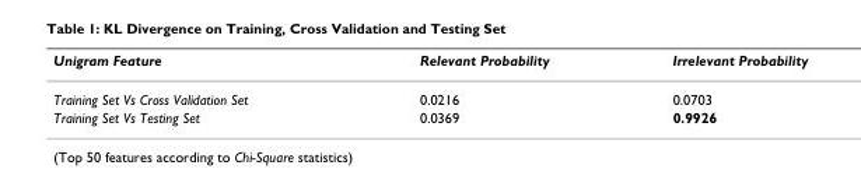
<table><thead><tr><td>Unigram Feature</td><td>Relevant Probability</td><td>Irrelevant Probability</td></tr></thead><tbody><tr><td>Training Set Vs Cross Validation Set</td><td>0.0216</td><td>0.0703</td></tr><tr><td>Training Set Vs Testing Set</td><td>0.0369</td><td>0.9926</td></tr></tbody></table>